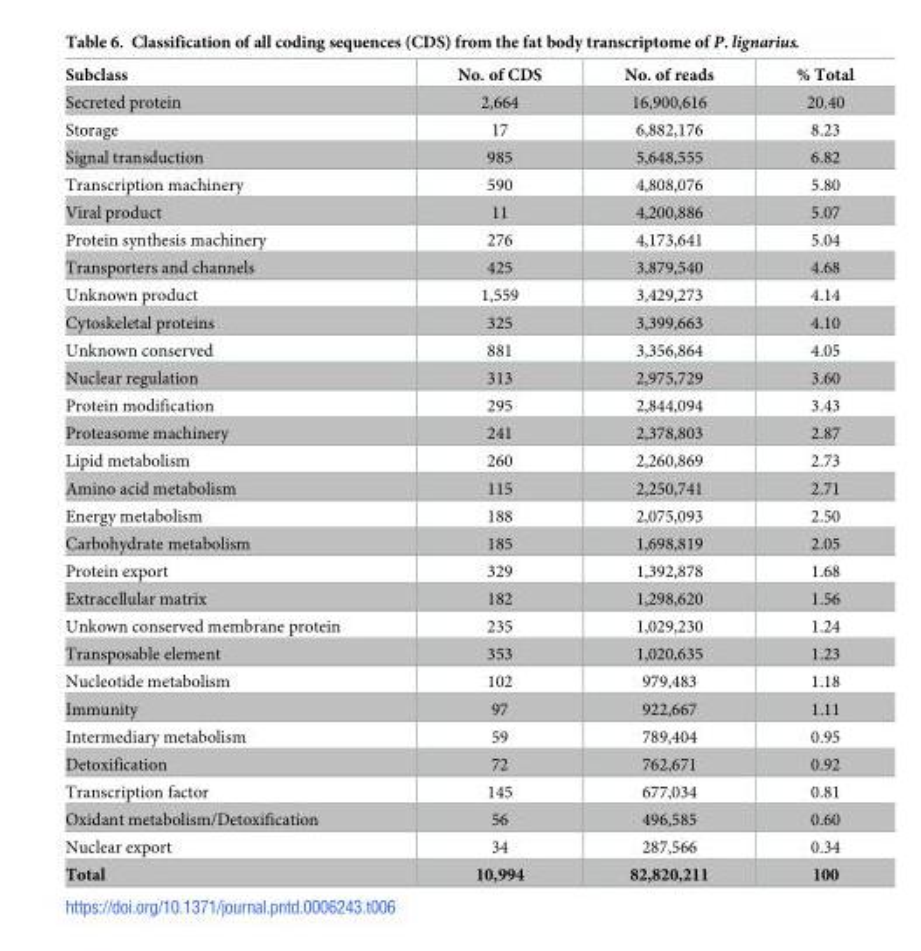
<table><thead><tr><td>Subclass</td><td>No. of CDS</td><td>No. of reads</td><td>% Total</td></tr></thead><tbody><tr><td>Secreted protein</td><td>2,664</td><td>16,900,616</td><td>20.40</td></tr><tr><td>Storage</td><td>17</td><td>6,882,176</td><td>8.23</td></tr><tr><td>Signal transduction</td><td>985</td><td>5,648,555</td><td>6.82</td></tr><tr><td>Transcription machinery</td><td>590</td><td>4,808,076</td><td>5.80</td></tr><tr><td>Viral product</td><td>11</td><td>4,200,886</td><td>5.07</td></tr><tr><td>Protein synthesis machinery</td><td>276</td><td>4,173,641</td><td>5.04</td></tr><tr><td>Transporters and channels</td><td>425</td><td>3,879,540</td><td>4.68</td></tr><tr><td>Unknown product</td><td>1,559</td><td>3,429,273</td><td>4.14</td></tr><tr><td>Cytoskeletal proteins</td><td>325</td><td>3,399,663</td><td>4.10</td></tr><tr><td>Unknown conserved</td><td>881</td><td>3,356,864</td><td>4.05</td></tr><tr><td>Nuclear regulation</td><td>313</td><td>2,975,729</td><td>3.60</td></tr><tr><td>Protein modification</td><td>295</td><td>2,844,094</td><td>3.43</td></tr><tr><td>Proteasome machinery</td><td>241</td><td>2,378,803</td><td>2.87</td></tr><tr><td>Lipid metabolism</td><td>260</td><td>2,260,869</td><td>2.73</td></tr><tr><td>Amino acid metabolism</td><td>115</td><td>2,250,741</td><td>2.71</td></tr><tr><td>Energy metabolism</td><td>188</td><td>2,075,093</td><td>2.50</td></tr><tr><td>Carbohydrate metabolism</td><td>185</td><td>1,698,819</td><td>2.05</td></tr><tr><td>Protein export</td><td>329</td><td>1,392,878</td><td>1.68</td></tr><tr><td>Extracellular matrix</td><td>182</td><td>1,298,620</td><td>1.56</td></tr><tr><td>Unkown conserved membrane protein</td><td>235</td><td>1,029,230</td><td>1.24</td></tr><tr><td>Transposable element</td><td>353</td><td>1,020,635</td><td>1.23</td></tr><tr><td>Nucleotide metabolism</td><td>102</td><td>979,483</td><td>1.18</td></tr><tr><td>Immunity</td><td>97</td><td>922,667</td><td>1.11</td></tr><tr><td>Intermediary metabolism</td><td>59</td><td>789,404</td><td>0.95</td></tr><tr><td>Detoxification</td><td>72</td><td>762,671</td><td>0.92</td></tr><tr><td>Transcription factor</td><td>145</td><td>677,034</td><td>0.81</td></tr><tr><td>Oxidant metabolism/Detoxification</td><td>56</td><td>496,585</td><td>0.60</td></tr><tr><td>Nuclear export</td><td>34</td><td>287,566</td><td>0.34</td></tr><tr><td>Total</td><td>10,994</td><td>82,820,211</td><td>100</td></tr></tbody></table>